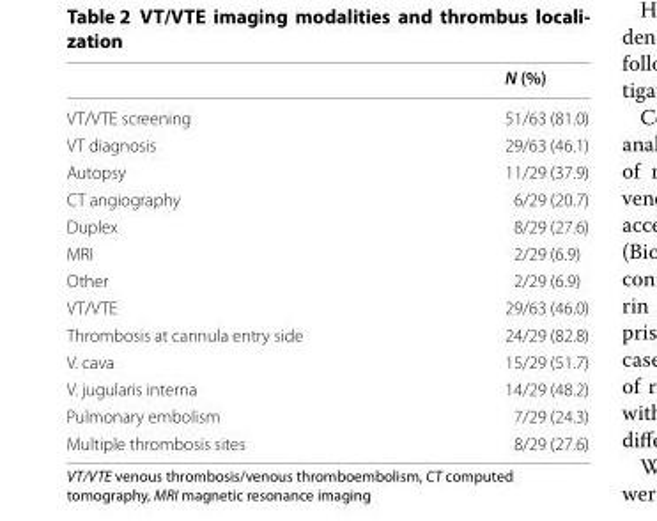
<table><thead><tr><td></td><td>N (%)</td></tr></thead><tbody><tr><td>VT/VTE screening</td><td>51/63 (81.0)</td></tr><tr><td>VT diagnosis</td><td>29/63 (46.1)</td></tr><tr><td>Autopsy</td><td>11/29 (37.9)</td></tr><tr><td>CT angiography</td><td>6/29 (20.7)</td></tr><tr><td>Duplex</td><td>8/29 (27.6)</td></tr><tr><td>MRI</td><td>2/29 (6.9)</td></tr><tr><td>Other</td><td>2/29 (6.9)</td></tr><tr><td>VT/VTE</td><td>29/63 (46.0)</td></tr><tr><td>Thrombosis at cannula entry side</td><td>24/29 (82.8)</td></tr><tr><td>V. cava</td><td>15/29 (51.7)</td></tr><tr><td>V. jugularis interna</td><td>14/29 (48.2)</td></tr><tr><td>Pulmonary embolism</td><td>7/29 (24.3)</td></tr><tr><td>Multiple thrombosis sites</td><td>8/29 (27.6)</td></tr></tbody></table>